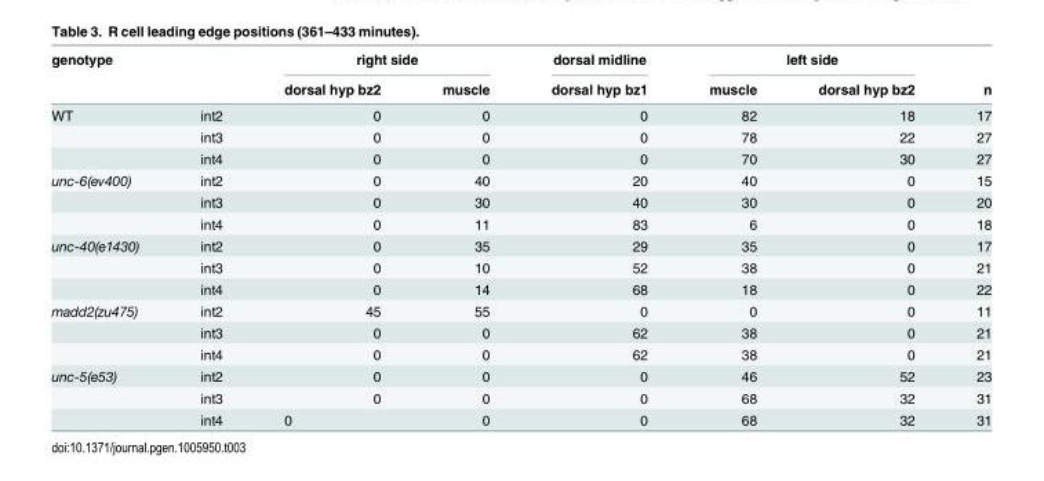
<table><thead><tr><td colspan="2">genotype</td><td colspan="2">right side</td><td rowspan="2">dorsal midline dorsal hyp bz1</td><td colspan="2">left side</td><td rowspan="2">n</td></tr><tr><td></td><td></td><td>dorsal hyp bz2</td><td>muscle</td><td>muscle</td><td>dorsal hyp bz2</td></tr></thead><tbody><tr><td rowspan="3">WT</td><td>int2</td><td>0</td><td>0</td><td>0</td><td>82</td><td>18</td><td>17</td></tr><tr><td>int3</td><td>0</td><td>0</td><td>0</td><td>78</td><td>22</td><td>27</td></tr><tr><td>int4</td><td>0</td><td>0</td><td>0</td><td>70</td><td>30</td><td>27</td></tr><tr><td rowspan="3">unc-6(ev400)</td><td>int2</td><td>0</td><td>40</td><td>20</td><td>40</td><td>0</td><td>15</td></tr><tr><td>int3</td><td>0</td><td>30</td><td>40</td><td>30</td><td>0</td><td>20</td></tr><tr><td>int4</td><td>0</td><td>11</td><td>83</td><td>6</td><td>0</td><td>18</td></tr><tr><td rowspan="3">unc-40(e1430)</td><td>int2</td><td>0</td><td>35</td><td>29</td><td>35</td><td>0</td><td>17</td></tr><tr><td>int3</td><td>0</td><td>10</td><td>52</td><td>38</td><td>0</td><td>21</td></tr><tr><td>int4</td><td>0</td><td>14</td><td>68</td><td>18</td><td>0</td><td>22</td></tr><tr><td rowspan="3">madd2(zu475)</td><td>int2</td><td>45</td><td>55</td><td>0</td><td>0</td><td>0</td><td>11</td></tr><tr><td>int3</td><td>0</td><td>0</td><td>62</td><td>38</td><td>0</td><td>21</td></tr><tr><td>int4</td><td>0</td><td>0</td><td>62</td><td>38</td><td>0</td><td>21</td></tr><tr><td rowspan="3">unc-5(e53)</td><td>int2</td><td>0</td><td>0</td><td>0</td><td>46</td><td>52</td><td>23</td></tr><tr><td>int3</td><td>0</td><td>0</td><td>0</td><td>68</td><td>32</td><td>31</td></tr><tr><td>int4</td><td>0</td><td>0</td><td>0</td><td>68</td><td>32</td><td>31</td></tr></tbody></table>